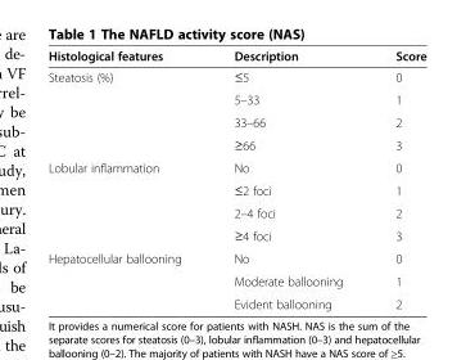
<table><thead><tr><td>Histological features</td><td>Description</td><td>Score</td></tr></thead><tbody><tr><td rowspan="4">Steatosis (%)</td><td>≤5</td><td>0</td></tr><tr><td>5–33</td><td>1</td></tr><tr><td>33–66</td><td>2</td></tr><tr><td>≥66</td><td>3</td></tr><tr><td rowspan="4">Lobular inflammation</td><td>No</td><td>0</td></tr><tr><td>≤2 foci</td><td>1</td></tr><tr><td>2–4 foci</td><td>2</td></tr><tr><td>≥4 foci</td><td>3</td></tr><tr><td rowspan="3">Hepatocellular ballooning</td><td>No</td><td>0</td></tr><tr><td>Moderate ballooning</td><td>1</td></tr><tr><td>Evident ballooning</td><td>2</td></tr></tbody></table>